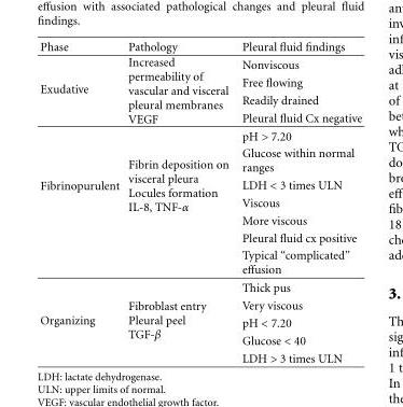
<table><thead><tr><td>Phase</td><td>Pathology</td><td>Pleural fluid findings</td></tr></thead><tbody><tr><td rowspan="4">Exudative</td><td rowspan="4">Increased permeability of vascular and visceral pleural membranes VEGF</td><td>Nonviscous</td></tr><tr><td>Free flowing</td></tr><tr><td>Readily drained</td></tr><tr><td>Pleural fluid Cx negative</td></tr><tr><td rowspan="7">Fibrinopurulent</td><td rowspan="7">Fibrin deposition on visceral pleura Locules formation IL-8, TNF-α</td><td>pH &gt; 7.20</td></tr><tr><td>Glucose within normal ranges</td></tr><tr><td>LDH &lt; 3 times ULN</td></tr><tr><td>Viscous</td></tr><tr><td>More viscous</td></tr><tr><td>Pleural fluid cx positive</td></tr><tr><td>Typical “complicated” effusion</td></tr><tr><td rowspan="5">Organizing</td><td rowspan="5">Fibroblast entry Pleural peel TGF-β</td><td>Thick pus</td></tr><tr><td>Very viscous</td></tr><tr><td>pH &lt; 7.20</td></tr><tr><td>Glucose &lt; 40</td></tr><tr><td>LDH &gt; 3 times ULN</td></tr></tbody></table>